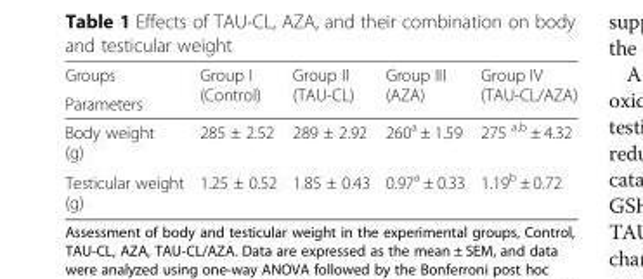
<table><thead><tr><td rowspan="2">Groups Parameters</td><td rowspan="2">Group I (Control)</td><td rowspan="2">Group II (TAU-CL)</td><td rowspan="2">Group III (AZA)</td><td rowspan="2">Group IV (TAU-CL/AZA)</td></tr><tr></tr></thead><tbody><tr><td>Body weight (g)</td><td>285 ± 2.52</td><td>289 ± 2.92</td><td>260<sup>a</sup> ± 1.59</td><td>275 <sup>a,b</sup> ± 4.32</td></tr><tr><td>Testicular weight (g)</td><td>1.25 ± 0.52</td><td>1.85 ± 0.43</td><td>0.97<sup>a</sup> ± 0.33</td><td>1.19<sup>b</sup> ± 0.72</td></tr></tbody></table>